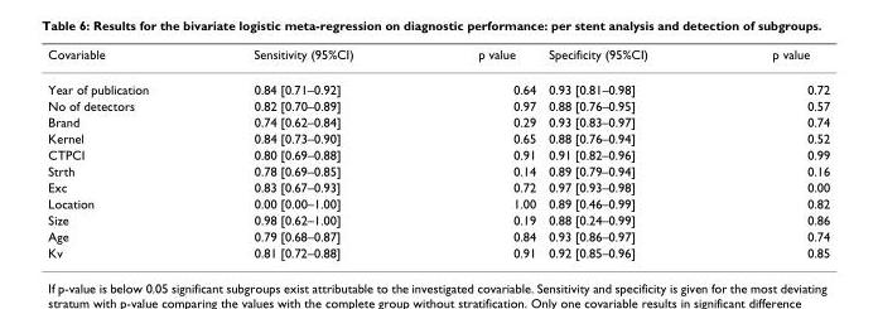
<table><thead><tr><td>Covariable</td><td>Sensitivity (95%CI)</td><td>p value</td><td>Specificity (95%CI)</td><td>p value</td></tr></thead><tbody><tr><td>Year of publication</td><td>0.84 [0.71–0.92]</td><td>0.64</td><td>0.93 [0.81–0.98]</td><td>0.72</td></tr><tr><td>No of detectors</td><td>0.82 [0.70–0.89]</td><td>0.97</td><td>0.88 [0.76–0.95]</td><td>0.57</td></tr><tr><td>Brand</td><td>0.74 [0.62–0.84]</td><td>0.29</td><td>0.93 [0.83–0.97]</td><td>0.74</td></tr><tr><td>Kernel</td><td>0.84 [0.73–0.90]</td><td>0.65</td><td>0.88 [0.76–0.94]</td><td>0.52</td></tr><tr><td>CTPCI</td><td>0.80 [0.69–0.88]</td><td>0.91</td><td>0.91 [0.82–0.96]</td><td>0.99</td></tr><tr><td>Strth</td><td>0.78 [0.69–0.85]</td><td>0.14</td><td>0.89 [0.79–0.94]</td><td>0.16</td></tr><tr><td>Exc</td><td>0.83 [0.67–0.93]</td><td>0.72</td><td>0.97 [0.93–0.98]</td><td>0.00</td></tr><tr><td>Location</td><td>0.00 [0.00–1.00]</td><td>1.00</td><td>0.89 [0.46–0.99]</td><td>0.82</td></tr><tr><td>Size</td><td>0.98 [0.62–1.00]</td><td>0.19</td><td>0.88 [0.24–0.99]</td><td>0.86</td></tr><tr><td>Age</td><td>0.79 [0.68–0.87]</td><td>0.84</td><td>0.93 [0.86–0.97]</td><td>0.74</td></tr><tr><td>Kv</td><td>0.81 [0.72–0.88]</td><td>0.91</td><td>0.92 [0.85–0.96]</td><td>0.85</td></tr></tbody></table>